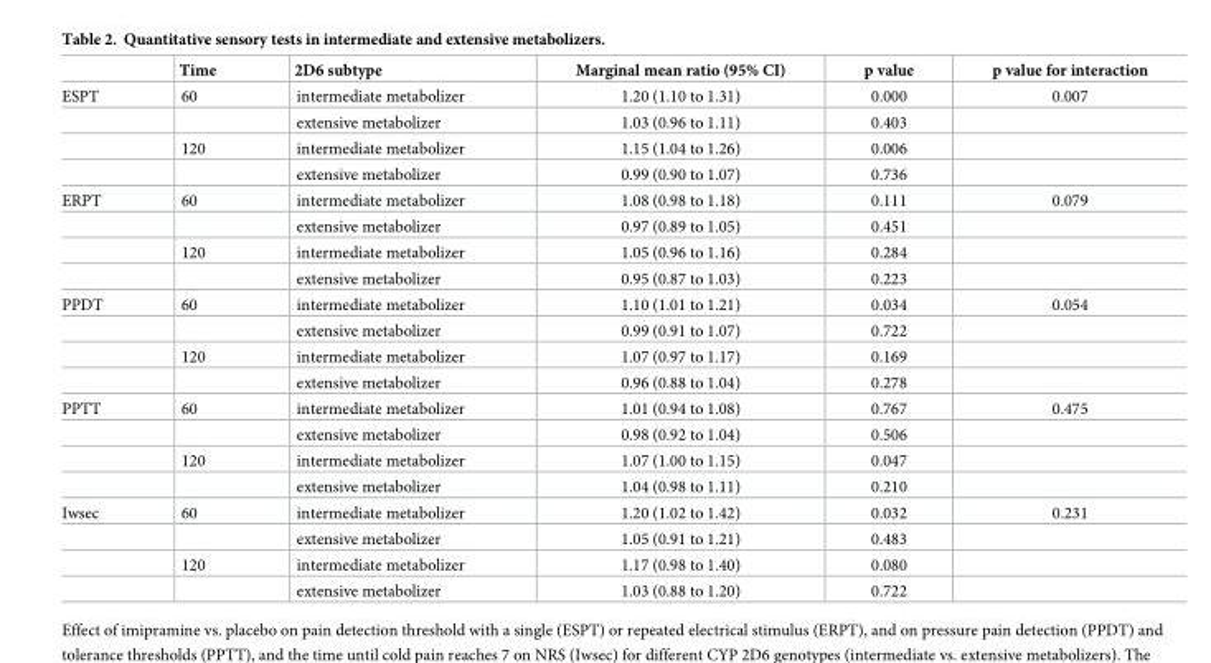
<table><thead><tr><td></td><td>Time</td><td>2D6 subtype</td><td>Marginal mean ratio (95% CI)</td><td>p value</td><td>p value for interaction</td></tr></thead><tbody><tr><td rowspan="4">ESPT</td><td>60</td><td>intermediate metabolizer</td><td>1.20 (1.10 to 1.31)</td><td>0.000</td><td>0.007</td></tr><tr><td></td><td>extensive metabolizer</td><td>1.03 (0.96 to 1.11)</td><td>0.403</td><td></td></tr><tr><td>120</td><td>intermediate metabolizer</td><td>1.15 (1.04 to 1.26)</td><td>0.006</td><td></td></tr><tr><td></td><td>extensive metabolizer</td><td>0.99 (0.90 to 1.07)</td><td>0.736</td><td></td></tr><tr><td rowspan="4">ERPT</td><td>60</td><td>intermediate metabolizer</td><td>1.08 (0.98 to 1.18)</td><td>0.111</td><td>0.079</td></tr><tr><td></td><td>extensive metabolizer</td><td>0.97 (0.89 to 1.05)</td><td>0.451</td><td></td></tr><tr><td>120</td><td>intermediate metabolizer</td><td>1.05 (0.96 to 1.16)</td><td>0.284</td><td></td></tr><tr><td></td><td>extensive metabolizer</td><td>0.95 (0.87 to 1.03)</td><td>0.223</td><td></td></tr><tr><td rowspan="4">PPDT</td><td>60</td><td>intermediate metabolizer</td><td>1.10 (1.01 to 1.21)</td><td>0.034</td><td>0.054</td></tr><tr><td></td><td>extensive metabolizer</td><td>0.99 (0.91 to 1.07)</td><td>0.722</td><td></td></tr><tr><td>120</td><td>intermediate metabolizer</td><td>1.07 (0.97 to 1.17)</td><td>0.169</td><td></td></tr><tr><td></td><td>extensive metabolizer</td><td>0.96 (0.88 to 1.04)</td><td>0.278</td><td></td></tr><tr><td rowspan="4">PPTT</td><td>60</td><td>intermediate metabolizer</td><td>1.01 (0.94 to 1.08)</td><td>0.767</td><td>0.475</td></tr><tr><td></td><td>extensive metabolizer</td><td>0.98 (0.92 to 1.04)</td><td>0.506</td><td></td></tr><tr><td>120</td><td>intermediate metabolizer</td><td>1.07 (1.00 to 1.15)</td><td>0.047</td><td></td></tr><tr><td></td><td>extensive metabolizer</td><td>1.04 (0.98 to 1.11)</td><td>0.210</td><td></td></tr><tr><td rowspan="4">Iwsec</td><td>60</td><td>intermediate metabolizer</td><td>1.20 (1.02 to 1.42)</td><td>0.032</td><td>0.231</td></tr><tr><td></td><td>extensive metabolizer</td><td>1.05 (0.91 to 1.21)</td><td>0.483</td><td></td></tr><tr><td>120</td><td>intermediate metabolizer</td><td>1.17 (0.98 to 1.40)</td><td>0.080</td><td></td></tr><tr><td></td><td>extensive metabolizer</td><td>1.03 (0.88 to 1.20)</td><td>0.722</td><td></td></tr></tbody></table>